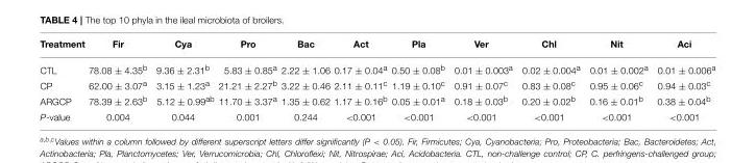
<table><thead><tr><td>Treatment</td><td>Fir</td><td>Cya</td><td>Pro</td><td>Bac</td><td>Act</td><td>Pla</td><td>Ver</td><td>Chl</td><td>Nit</td><td>Aci</td></tr></thead><tbody><tr><td>CTL</td><td>78.08 ± 4.35<sup>b</sup></td><td>9.36 ± 2.31<sup>b</sup></td><td>5.83 ± 0.85<sup>a</sup></td><td>2.22 ± 1.06</td><td>0.17 ± 0.04<sup>a</sup></td><td>0.50 ± 0.08<sup>b</sup></td><td>0.01 ± 0.003<sup>a</sup></td><td>0.02 ± 0.004<sup>a</sup></td><td>0.01 ± 0.002<sup>a</sup></td><td>0.01 ± 0.006<sup>a</sup></td></tr><tr><td>CP</td><td>62.00 ± 3.07<sup>a</sup></td><td>3.15 ± 1.23<sup>a</sup></td><td>21.21 ± 2.27<sup>b</sup></td><td>3.22 ± 0.46</td><td>2.11 ± 0.11<sup>c</sup></td><td>1.19 ± 0.10<sup>c</sup></td><td>0.91 ± 0.07<sup>c</sup></td><td>0.83 ± 0.08<sup>c</sup></td><td>0.95 ± 0.06<sup>c</sup></td><td>0.94 ± 0.03<sup>c</sup></td></tr><tr><td>ARGCP</td><td>78.39 ± 2.63<sup>b</sup></td><td>5.12 ± 0.99<sup>ab</sup></td><td>11.70 ± 3.37<sup>a</sup></td><td>1.35 ± 0.62</td><td>1.17 ± 0.16<sup>b</sup></td><td>0.05 ± 0.01<sup>a</sup></td><td>0.18 ± 0.03<sup>b</sup></td><td>0.20 ± 0.02<sup>b</sup></td><td>0.16 ± 0.01<sup>b</sup></td><td>0.38 ± 0.04<sup>b</sup></td></tr><tr><td>P-value</td><td>0.004</td><td>0.044</td><td>0.001</td><td>0.244</td><td>&lt;0.001</td><td>&lt;0.001</td><td>&lt;0.001</td><td>&lt;0.001</td><td>&lt;0.001</td><td>&lt;0.001</td></tr></tbody></table>